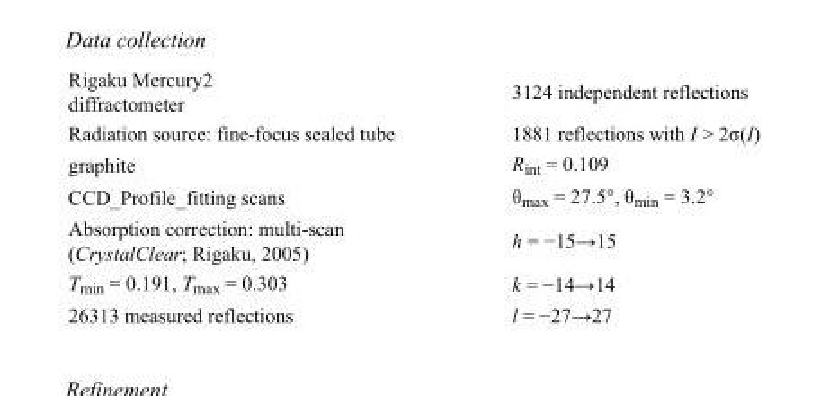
<table><tbody><tr><td>Rigaku Mercury2 diffractometer</td><td>3124 independent reflections</td></tr><tr><td>Radiation source: fine-focus sealed tube</td><td>1881 reflections with I &gt; 2σ(I)</td></tr><tr><td>graphite</td><td>R<sub>int</sub> = 0.109</td></tr><tr><td>CCD_Profile_fitting scans</td><td>θ<sub>max</sub> = 27.5°, θ<sub>min</sub> = 3.2°</td></tr><tr><td>Absorption correction: multi-scan (CrystalClear; Rigaku, 2005)</td><td>h = −15→15</td></tr><tr><td>T<sub>min</sub> = 0.191, T<sub>max</sub> = 0.303</td><td>k = −14→14</td></tr><tr><td>26313 measured reflections</td><td>l = −27→27</td></tr></tbody></table>